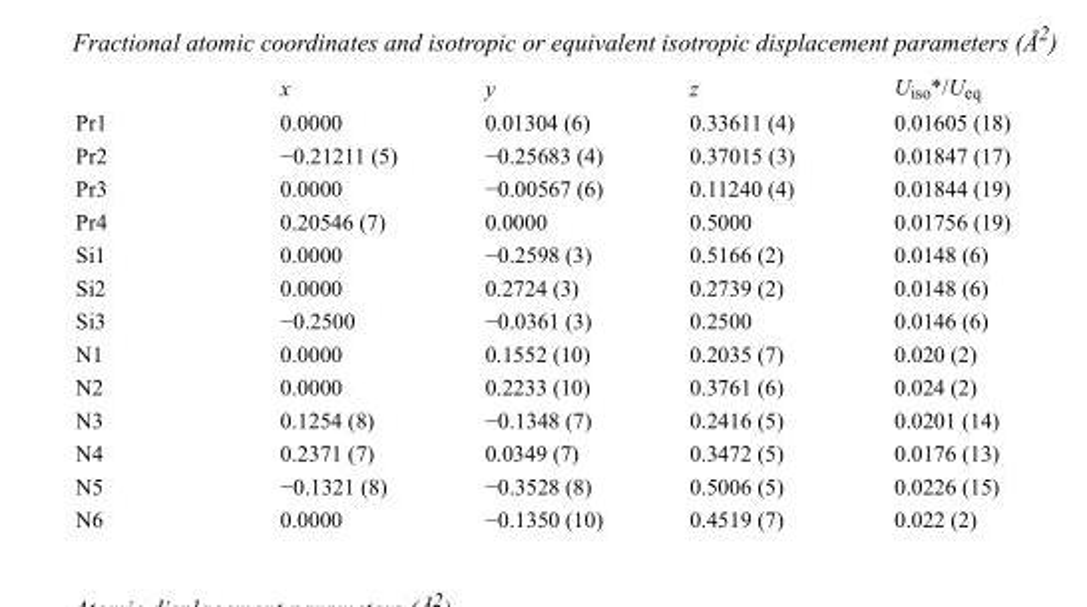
<table><thead><tr><td></td><td>x</td><td>y</td><td>z</td><td>U<sub>iso</sub>*/U<sub>eq</sub></td></tr></thead><tbody><tr><td>Pr1</td><td>0.0000</td><td>0.01304 (6)</td><td>0.33611 (4)</td><td>0.01605 (18)</td></tr><tr><td>Pr2</td><td>−0.21211 (5)</td><td>−0.25683 (4)</td><td>0.37015 (3)</td><td>0.01847 (17)</td></tr><tr><td>Pr3</td><td>0.0000</td><td>−0.00567 (6)</td><td>0.11240 (4)</td><td>0.01844 (19)</td></tr><tr><td>Pr4</td><td>0.20546 (7)</td><td>0.0000</td><td>0.5000</td><td>0.01756 (19)</td></tr><tr><td>Si1</td><td>0.0000</td><td>−0.2598 (3)</td><td>0.5166 (2)</td><td>0.0148 (6)</td></tr><tr><td>Si2</td><td>0.0000</td><td>0.2724 (3)</td><td>0.2739 (2)</td><td>0.0148 (6)</td></tr><tr><td>Si3</td><td>−0.2500</td><td>−0.0361 (3)</td><td>0.2500</td><td>0.0146 (6)</td></tr><tr><td>N1</td><td>0.0000</td><td>0.1552 (10)</td><td>0.2035 (7)</td><td>0.020 (2)</td></tr><tr><td>N2</td><td>0.0000</td><td>0.2233 (10)</td><td>0.3761 (6)</td><td>0.024 (2)</td></tr><tr><td>N3</td><td>0.1254 (8)</td><td>−0.1348 (7)</td><td>0.2416 (5)</td><td>0.0201 (14)</td></tr><tr><td>N4</td><td>0.2371 (7)</td><td>0.0349 (7)</td><td>0.3472 (5)</td><td>0.0176 (13)</td></tr><tr><td>N5</td><td>−0.1321 (8)</td><td>−0.3528 (8)</td><td>0.5006 (5)</td><td>0.0226 (15)</td></tr><tr><td>N6</td><td>0.0000</td><td>−0.1350 (10)</td><td>0.4519 (7)</td><td>0.022 (2)</td></tr></tbody></table>